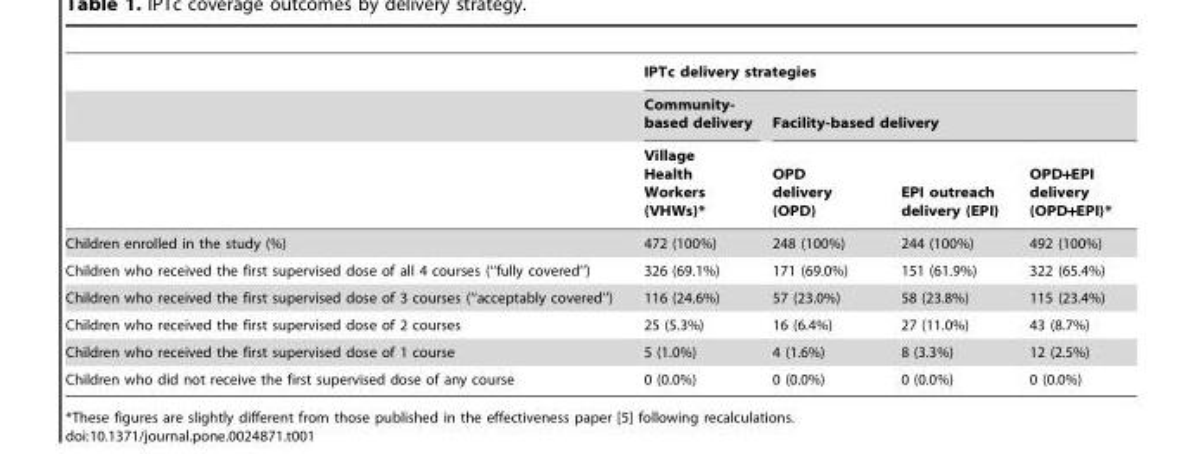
<table><thead><tr><td rowspan="3"></td><td colspan="4">IPTc delivery strategies</td></tr><tr><td rowspan="2">Community- based delivery Village Health Workers (VHWs)*</td><td colspan="3">Facility-based delivery</td></tr><tr><td>OPD delivery (OPD)</td><td>EPI outreach delivery (EPI)</td><td>OPD+EPI delivery (OPD+EPI)*</td></tr></thead><tbody><tr><td>Children enrolled in the study (%)</td><td>472 (100%)</td><td>248 (100%)</td><td>244 (100%)</td><td>492 (100%)</td></tr><tr><td>Children who received the first supervised dose of all 4 courses (‘‘fully covered’’)</td><td>326 (69.1%)</td><td>171 (69.0%)</td><td>151 (61.9%)</td><td>322 (65.4%)</td></tr><tr><td>Children who received the first supervised dose of 3 courses (‘‘acceptably covered’’)</td><td>116 (24.6%)</td><td>57 (23.0%)</td><td>58 (23.8%)</td><td>115 (23.4%)</td></tr><tr><td>Children who received the first supervised dose of 2 courses</td><td>25 (5.3%)</td><td>16 (6.4%)</td><td>27 (11.0%)</td><td>43 (8.7%)</td></tr><tr><td>Children who received the first supervised dose of 1 course</td><td>5 (1.0%)</td><td>4 (1.6%)</td><td>8 (3.3%)</td><td>12 (2.5%)</td></tr><tr><td>Children who did not receive the first supervised dose of any course</td><td>0 (0.0%)</td><td>0 (0.0%)</td><td>0 (0.0%)</td><td>0 (0.0%)</td></tr></tbody></table>